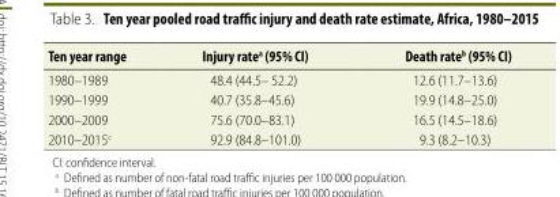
<table><thead><tr><td>Ten year range</td><td>Injury rate<sup>a</sup> (95% CI)</td><td>Death rate<sup>b</sup> (95% CI)</td></tr></thead><tbody><tr><td>1980–1989</td><td>48.4 (44.5– 52.2)</td><td>12.6 (11.7–13.6)</td></tr><tr><td>1990–1999</td><td>40.7 (35.8–45.6)</td><td>19.9 (14.8–25.0)</td></tr><tr><td>2000–2009</td><td>75.6 (70.0–83.1)</td><td>16.5 (14.5–18.6)</td></tr><tr><td>2010–2015<sup>c</sup></td><td>92.9 (84.8–101.0)</td><td>9.3 (8.2–10.3)</td></tr></tbody></table>